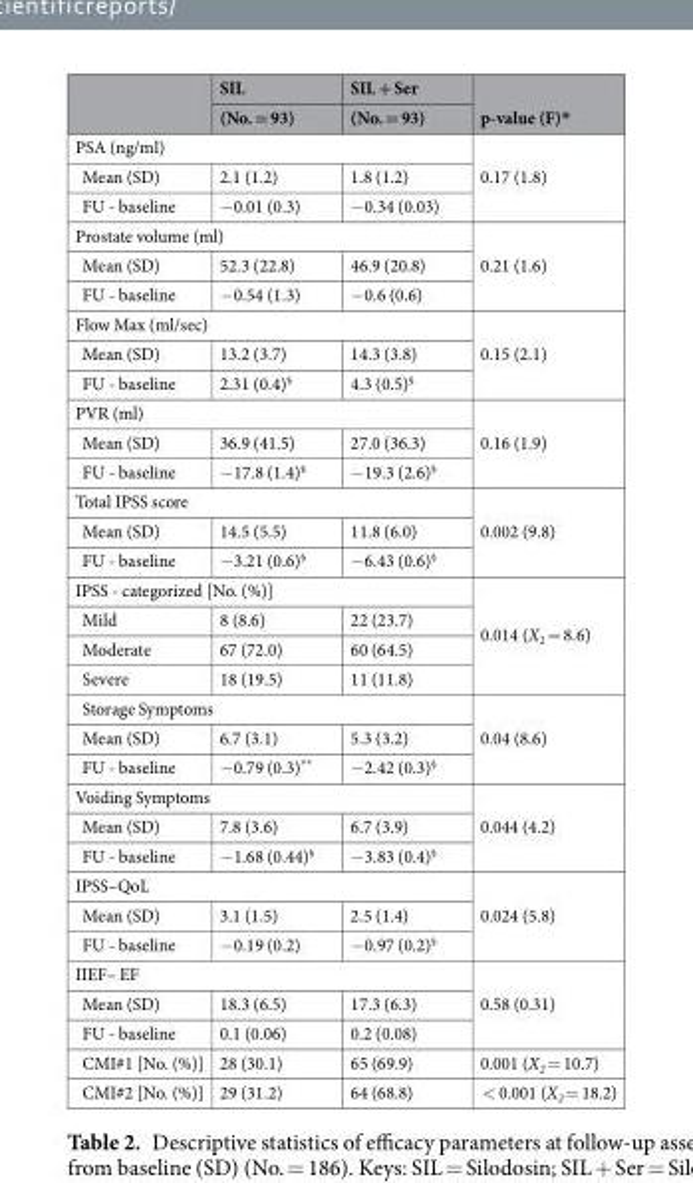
<table><thead><tr><td rowspan="2"></td><td rowspan="2">SIL (No. = 93)</td><td rowspan="2">SIL + Ser (No. = 93)</td><td rowspan="2">p-value (F)*</td></tr><tr></tr></thead><tbody><tr><td colspan="3">PSA (ng/ml)</td><td rowspan="3">0.17 (1.8)</td></tr><tr><td>Mean (SD)</td><td>2.1 (1.2)</td><td>1.8 (1.2)</td></tr><tr><td>FU - baseline</td><td>−0.01 (0.3)</td><td>−0.34 (0.03)</td></tr><tr><td colspan="3">Prostate volume (ml)</td><td rowspan="3">0.21 (1.6)</td></tr><tr><td>Mean (SD)</td><td>52.3 (22.8)</td><td>46.9 (20.8)</td></tr><tr><td>FU - baseline</td><td>−0.54 (1.3)</td><td>−0.6 (0.6)</td></tr><tr><td colspan="3">Flow Max (ml/sec)</td><td rowspan="3">0.15 (2.1)</td></tr><tr><td>Mean (SD)</td><td>13.2 (3.7)</td><td>14.3 (3.8)</td></tr><tr><td>FU - baseline</td><td>2.31 (0.4)<sup>§</sup></td><td>4.3 (0.5)<sup>§</sup></td></tr><tr><td colspan="3">PVR (ml)</td><td rowspan="3">0.16 (1.9)</td></tr><tr><td>Mean (SD)</td><td>36.9 (41.5)</td><td>27.0 (36.3)</td></tr><tr><td>FU - baseline</td><td>−17.8 (1.4)<sup>§</sup></td><td>−19.3 (2.6)<sup>§</sup></td></tr><tr><td colspan="3">Total IPSS score</td><td rowspan="3">0.002 (9.8)</td></tr><tr><td>Mean (SD)</td><td>14.5 (5.5)</td><td>11.8 (6.0)</td></tr><tr><td>FU - baseline</td><td>−3.21 (0.6)<sup>§</sup></td><td>−6.43 (0.6)<sup>§</sup></td></tr><tr><td colspan="3">IPSS - categorized [No. (%)]</td><td rowspan="4">0.014 (X<sub>2</sub> = 8.6)</td></tr><tr><td>Mild</td><td>8 (8.6)</td><td>22 (23.7)</td></tr><tr><td>Moderate</td><td>67 (72.0)</td><td>60 (64.5)</td></tr><tr><td>Severe</td><td>18 (19.5)</td><td>11 (11.8)</td></tr><tr><td colspan="3">Storage Symptoms</td><td rowspan="3">0.04 (8.6)</td></tr><tr><td>Mean (SD)</td><td>6.7 (3.1)</td><td>5.3 (3.2)</td></tr><tr><td>FU - baseline</td><td>−0.79 (0.3)**</td><td>−2.42 (0.3)<sup>§</sup></td></tr><tr><td colspan="3">Voiding Symptoms</td><td rowspan="3">0.044 (4.2)</td></tr><tr><td>Mean (SD)</td><td>7.8 (3.6)</td><td>6.7 (3.9)</td></tr><tr><td>FU - baseline</td><td>−1.68 (0.44)<sup>§</sup></td><td>−3.83 (0.4)<sup>§</sup></td></tr><tr><td colspan="3">IPSS–QoL</td><td rowspan="3">0.024 (5.8)</td></tr><tr><td>Mean (SD)</td><td>3.1 (1.5)</td><td>2.5 (1.4)</td></tr><tr><td>FU - baseline</td><td>−0.19 (0.2)</td><td>−0.97 (0.2)<sup>§</sup></td></tr><tr><td colspan="3">IIEF– EF</td><td rowspan="3">0.58 (0.31)</td></tr><tr><td>Mean (SD)</td><td>18.3 (6.5)</td><td>17.3 (6.3)</td></tr><tr><td>FU - baseline</td><td>0.1 (0.06)</td><td>0.2 (0.08)</td></tr><tr><td>CMI#1 [No. (%)]</td><td>28 (30.1)</td><td>65 (69.9)</td><td>0.001 (X<sub>2</sub> = 10.7)</td></tr><tr><td>CMI#2 [No. (%)]</td><td>29 (31.2)</td><td>64 (68.8)</td><td>&lt; 0.001 (X<sub>2</sub> = 18.2)</td></tr></tbody></table>